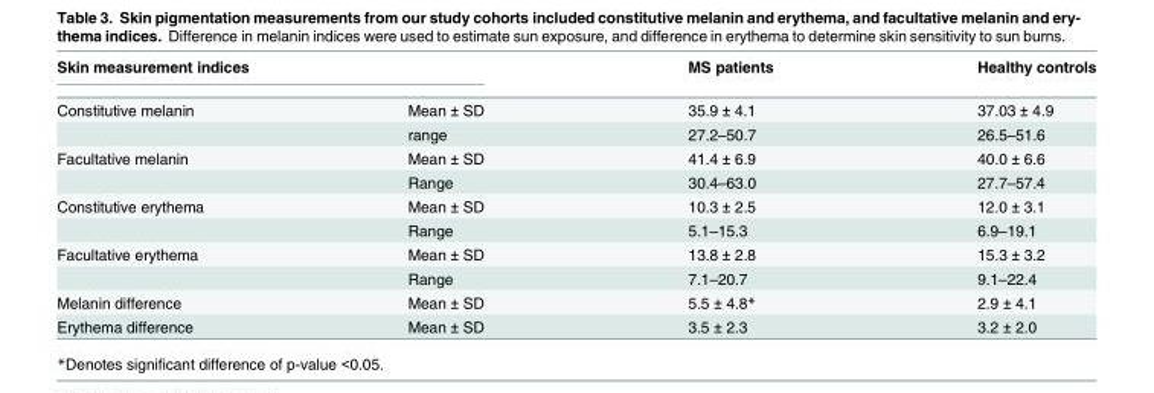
<table><thead><tr><td colspan="2">Skin measurement indices</td><td rowspan="2">MS patients 35.9 ± 4.1</td><td rowspan="2">Healthy controls 37.03 ± 4.9</td></tr><tr><td>Constitutive melanin</td><td>Mean ± SD</td></tr></thead><tbody><tr><td></td><td>range</td><td>27.2–50.7</td><td>26.5–51.6</td></tr><tr><td rowspan="2">Facultative melanin</td><td>Mean ± SD</td><td>41.4 ± 6.9</td><td>40.0 ± 6.6</td></tr><tr><td>Range</td><td>30.4–63.0</td><td>27.7–57.4</td></tr><tr><td rowspan="2">Constitutive erythema</td><td>Mean ± SD</td><td>10.3 ± 2.5</td><td>12.0 ± 3.1</td></tr><tr><td>Range</td><td>5.1–15.3</td><td>6.9–19.1</td></tr><tr><td rowspan="2">Facultative erythema</td><td>Mean ± SD</td><td>13.8 ± 2.8</td><td>15.3 ± 3.2</td></tr><tr><td>Range</td><td>7.1–20.7</td><td>9.1–22.4</td></tr><tr><td>Melanin difference</td><td>Mean ± SD</td><td>5.5 ± 4.8*</td><td>2.9 ± 4.1</td></tr><tr><td>Erythema difference</td><td>Mean ± SD</td><td>3.5 ± 2.3</td><td>3.2 ± 2.0</td></tr></tbody></table>